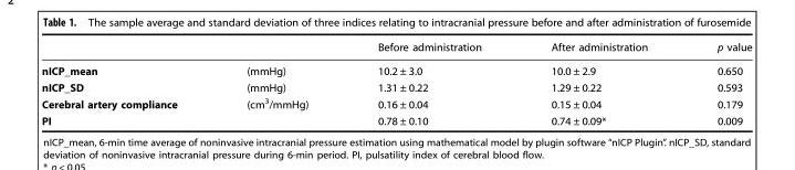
<table><thead><tr><td></td><td></td><td>Before administration</td><td>After administration</td><td>p value</td></tr></thead><tbody><tr><td>nICP_mean</td><td>(mmHg)</td><td>10.2 ± 3.0</td><td>10.0 ± 2.9</td><td>0.650</td></tr><tr><td>nICP_SD</td><td>(mmHg)</td><td>1.31 ± 0.22</td><td>1.29 ± 0.22</td><td>0.593</td></tr><tr><td>Cerebral artery compliance</td><td>(cm<sup>3</sup>/mmHg)</td><td>0.16 ± 0.04</td><td>0.15 ± 0.04</td><td>0.179</td></tr><tr><td>PI</td><td></td><td>0.78 ± 0.10</td><td>0.74 ± 0.09*</td><td>0.009</td></tr></tbody></table>